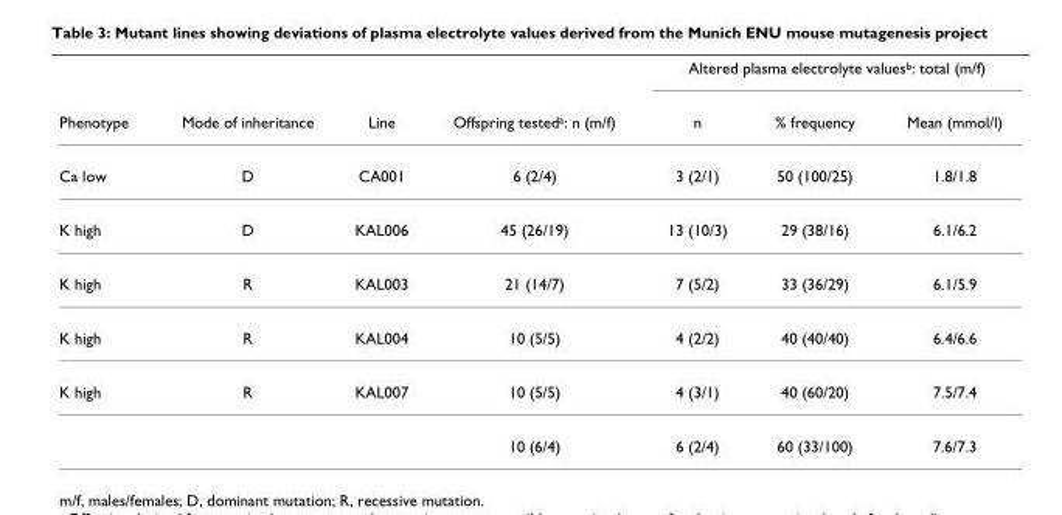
<table><thead><tr><td rowspan="2">Phenotype</td><td rowspan="2">Mode of inheritance</td><td rowspan="2">Line</td><td rowspan="2">Offspring tested<sup>a</sup>: n (m/f)</td><td colspan="3">Altered plasma electrolyte values<sup>b</sup>: total (m/f)</td></tr><tr><td>n</td><td>% frequency</td><td>Mean (mmol/l)</td></tr></thead><tbody><tr><td>Ca low</td><td>D</td><td>CA001</td><td>6 (2/4)</td><td>3 (2/1)</td><td>50 (100/25)</td><td>1.8/1.8</td></tr><tr><td>K high</td><td>D</td><td>KAL006</td><td>45 (26/19)</td><td>13 (10/3)</td><td>29 (38/16)</td><td>6.1/6.2</td></tr><tr><td>K high</td><td>R</td><td>KAL003</td><td>21 (14/7)</td><td>7 (5/2)</td><td>33 (36/29)</td><td>6.1/5.9</td></tr><tr><td>K high</td><td>R</td><td>KAL004</td><td>10 (5/5)</td><td>4 (2/2)</td><td>40 (40/40)</td><td>6.4/6.6</td></tr><tr><td rowspan="2">K high</td><td>R</td><td>KAL007</td><td>10 (5/5)</td><td>4 (3/1)</td><td>40 (60/20)</td><td>7.5/7.4</td></tr><tr><td></td><td></td><td>10 (6/4)</td><td>6 (2/4)</td><td>60 (33/100)</td><td>7.6/7.3</td></tr></tbody></table>